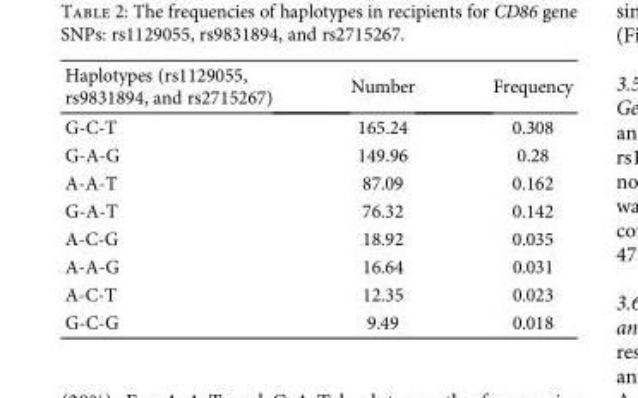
<table><thead><tr><td>Haplotypes (rs1129055, rs9831894, and rs2715267)</td><td>Number</td><td>Frequency</td></tr></thead><tbody><tr><td>G-C-T</td><td>165.24</td><td>0.308</td></tr><tr><td>G-A-G</td><td>149.96</td><td>0.28</td></tr><tr><td>A-A-T</td><td>87.09</td><td>0.162</td></tr><tr><td>G-A-T</td><td>76.32</td><td>0.142</td></tr><tr><td>A-C-G</td><td>18.92</td><td>0.035</td></tr><tr><td>A-A-G</td><td>16.64</td><td>0.031</td></tr><tr><td>A-C-T</td><td>12.35</td><td>0.023</td></tr><tr><td>G-C-G</td><td>9.49</td><td>0.018</td></tr></tbody></table>